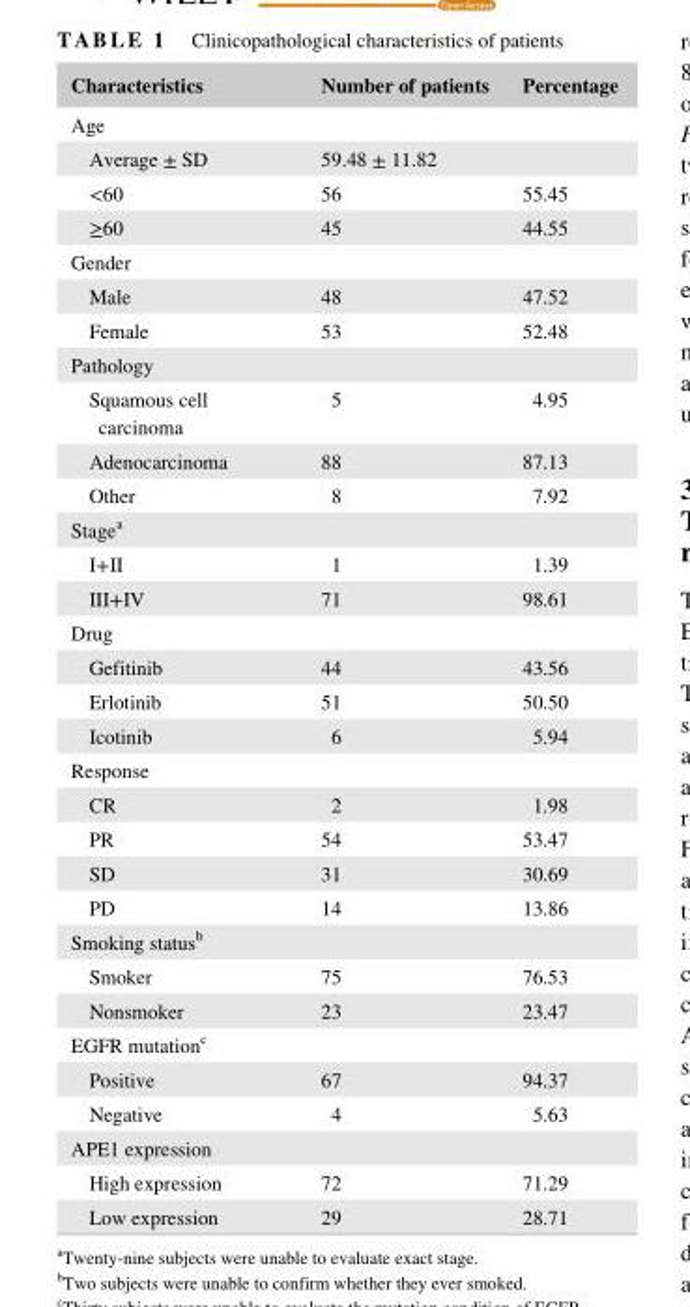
<table><thead><tr><td>Characteristics</td><td>Number of patients</td><td>Percentage</td></tr></thead><tbody><tr><td colspan="3">Age</td></tr><tr><td>Average ± SD</td><td>59.48 ± 11.82</td><td></td></tr><tr><td>&lt;60</td><td>56</td><td>55.45</td></tr><tr><td>≥60</td><td>45</td><td>44.55</td></tr><tr><td colspan="3">Gender</td></tr><tr><td>Male</td><td>48</td><td>47.52</td></tr><tr><td>Female</td><td>53</td><td>52.48</td></tr><tr><td colspan="3">Pathology</td></tr><tr><td>Squamous cell carcinoma</td><td>5</td><td>4.95</td></tr><tr><td>Adenocarcinoma</td><td>88</td><td>87.13</td></tr><tr><td>Other</td><td>8</td><td>7.92</td></tr><tr><td colspan="3">Stage<sup>a</sup></td></tr><tr><td>I+II</td><td>1</td><td>1.39</td></tr><tr><td>III+IV</td><td>71</td><td>98.61</td></tr><tr><td colspan="3">Drug</td></tr><tr><td>Gefitinib</td><td>44</td><td>43.56</td></tr><tr><td>Erlotinib</td><td>51</td><td>50.50</td></tr><tr><td>Icotinib</td><td>6</td><td>5.94</td></tr><tr><td colspan="3">Response</td></tr><tr><td>CR</td><td>2</td><td>1.98</td></tr><tr><td>PR</td><td>54</td><td>53.47</td></tr><tr><td>SD</td><td>31</td><td>30.69</td></tr><tr><td>PD</td><td>14</td><td>13.86</td></tr><tr><td colspan="3">Smoking status<sup>b</sup></td></tr><tr><td>Smoker</td><td>75</td><td>76.53</td></tr><tr><td>Nonsmoker</td><td>23</td><td>23.47</td></tr><tr><td colspan="3">EGFR mutation<sup>c</sup></td></tr><tr><td>Positive</td><td>67</td><td>94.37</td></tr><tr><td>Negative</td><td>4</td><td>5.63</td></tr><tr><td colspan="3">APE1 expression</td></tr><tr><td>High expression</td><td>72</td><td>71.29</td></tr><tr><td>Low expression</td><td>29</td><td>28.71</td></tr></tbody></table>